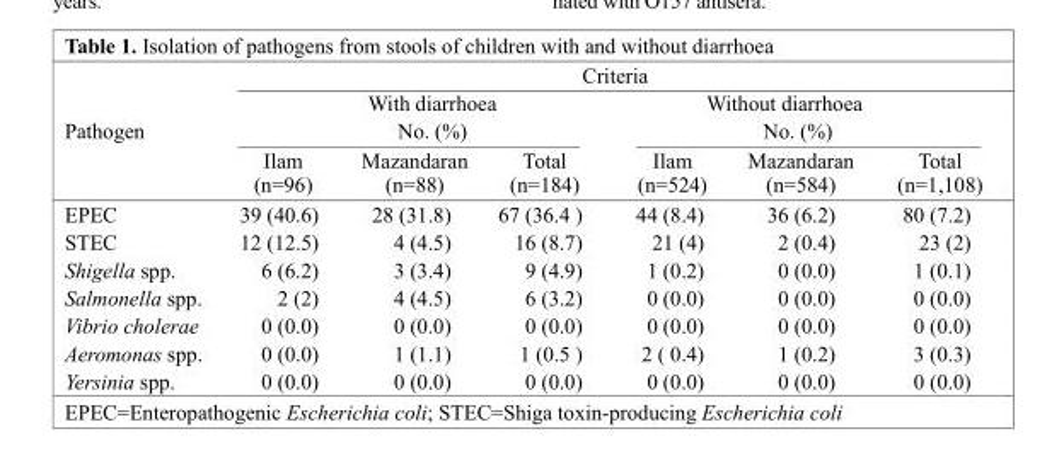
<table><thead><tr><td rowspan="3">Pathogen</td><td colspan="6">Criteria</td></tr><tr><td colspan="3">With diarrhoea No. (%)</td><td colspan="3">Without diarrhoea No. (%)</td></tr><tr><td>Ilam (n=96)</td><td>Mazandaran (n=88)</td><td>Total (n=184)</td><td>Ilam (n=524)</td><td>Mazandaran (n=584)</td><td>Total (n=1,108)</td></tr></thead><tbody><tr><td>EPEC</td><td>39 (40.6)</td><td>28 (31.8)</td><td>67 (36.4 )</td><td>44 (8.4)</td><td>36 (6.2)</td><td>80 (7.2)</td></tr><tr><td>STEC</td><td>12 (12.5)</td><td>4 (4.5)</td><td>16 (8.7)</td><td>21 (4)</td><td>2 (0.4)</td><td>23 (2)</td></tr><tr><td>Shigella spp.</td><td>6 (6.2)</td><td>3 (3.4)</td><td>9 (4.9)</td><td>1 (0.2)</td><td>0 (0.0)</td><td>1 (0.1)</td></tr><tr><td>Salmonella spp.</td><td>2 (2)</td><td>4 (4.5)</td><td>6 (3.2)</td><td>0 (0.0)</td><td>0 (0.0)</td><td>0 (0.0)</td></tr><tr><td>Vibrio cholerae</td><td>0 (0.0)</td><td>0 (0.0)</td><td>0 (0.0)</td><td>0 (0.0)</td><td>0 (0.0)</td><td>0 (0.0)</td></tr><tr><td>Aeromonas spp.</td><td>0 (0.0)</td><td>1 (1.1)</td><td>1 (0.5 )</td><td>2 ( 0.4)</td><td>1 (0.2)</td><td>3 (0.3)</td></tr><tr><td>Yersinia spp.</td><td>0 (0.0)</td><td>0 (0.0)</td><td>0 (0.0)</td><td>0 (0.0)</td><td>0 (0.0)</td><td>0 (0.0)</td></tr></tbody></table>